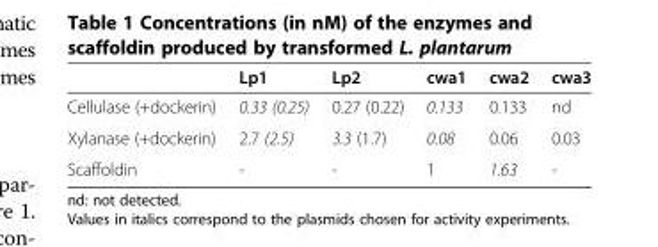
<table><thead><tr><td></td><td>Lp1</td><td>Lp2</td><td>cwa1</td><td>cwa2</td><td>cwa3</td></tr></thead><tbody><tr><td>Cellulase (+dockerin)</td><td>0.33 (0.25)</td><td>0.27 (0.22)</td><td>0.133</td><td>0.133</td><td>nd</td></tr><tr><td>Xylanase (+dockerin)</td><td>2.7 (2.5)</td><td>3.3 (1.7)</td><td>0.08</td><td>0.06</td><td>0.03</td></tr><tr><td>Scaffoldin</td><td>-</td><td>-</td><td>1</td><td>1.63</td><td>-</td></tr></tbody></table>